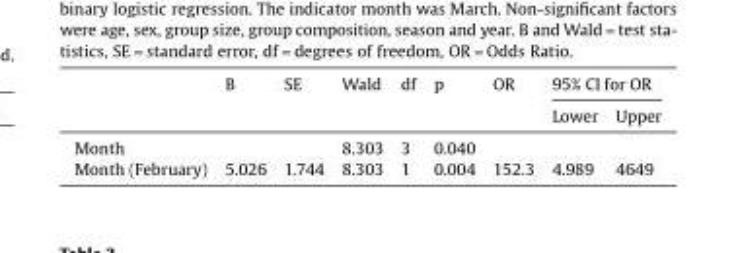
<table><thead><tr><td rowspan="2"></td><td rowspan="2">B</td><td rowspan="2">SE</td><td rowspan="2">Wald</td><td rowspan="2">df</td><td rowspan="2">p</td><td rowspan="2">OR</td><td colspan="2">95% CI for OR</td></tr><tr><td>Lower</td><td>Upper</td></tr></thead><tbody><tr><td>Month</td><td></td><td></td><td>8.303</td><td>3</td><td>0.040</td><td></td><td></td><td></td></tr><tr><td>Month (February)</td><td>5.026</td><td>1.744</td><td>8.303</td><td>1</td><td>0.004</td><td>152.3</td><td>4.989</td><td>4649</td></tr></tbody></table>